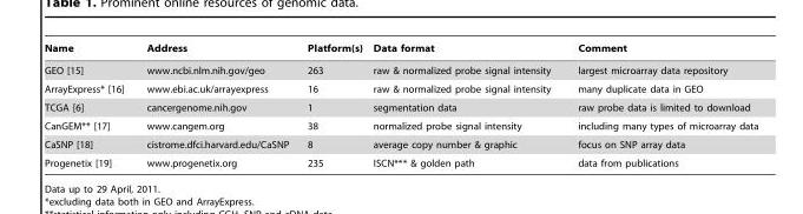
<table><thead><tr><td>Name</td><td>Address</td><td>Platform(s)</td><td>Data format</td><td>Comment</td></tr></thead><tbody><tr><td>GEO [15]</td><td>www.ncbi.nlm.nih.gov/geo</td><td>263</td><td>raw &amp; normalized probe signal intensity</td><td>largest microarray data repository</td></tr><tr><td>ArrayExpress* [16]</td><td>www.ebi.ac.uk/arrayexpress</td><td>16</td><td>raw &amp; normalized probe signal intensity</td><td>many duplicate data in GEO</td></tr><tr><td>TCGA [6]</td><td>cancergenome.nih.gov</td><td>1</td><td>segmentation data</td><td>raw probe data is limited to download</td></tr><tr><td>CanGEM** [17]</td><td>www.cangem.org</td><td>38</td><td>normalized probe signal intensity</td><td>including many types of microarray data</td></tr><tr><td>CaSNP [18]</td><td>cistrome.dfci.harvard.edu/CaSNP</td><td>8</td><td>average copy number &amp; graphic</td><td>focus on SNP array data</td></tr><tr><td>Progenetix [19]</td><td>www.progenetix.org</td><td>235</td><td>ISCN*** &amp; golden path</td><td>data from publications</td></tr></tbody></table>